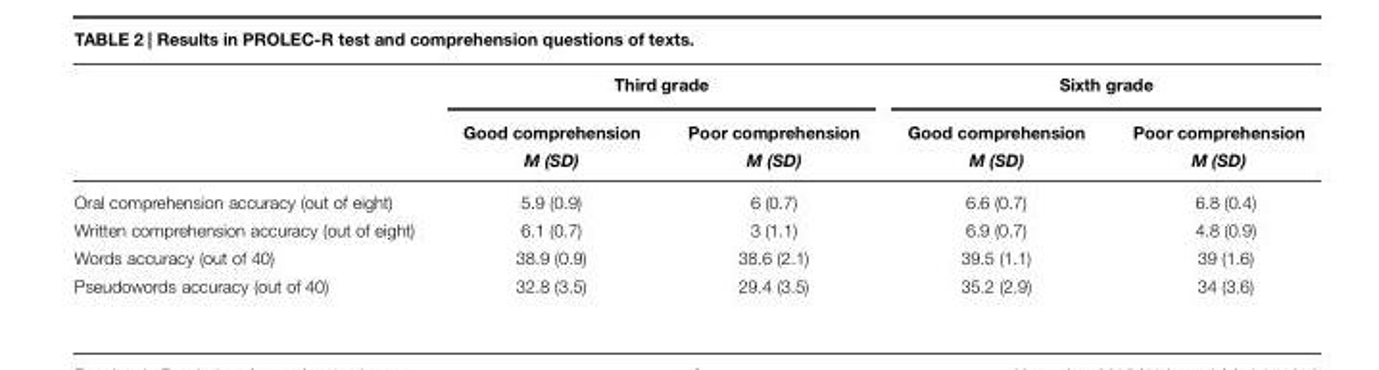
<table><thead><tr><td rowspan="3"></td><td colspan="2">Third grade</td><td colspan="2">Sixth grade</td></tr><tr><td rowspan="2">Good comprehension M (SD)</td><td rowspan="2">Poor comprehension M (SD)</td><td rowspan="2">Good comprehension M (SD)</td><td rowspan="2">Poor comprehension M (SD)</td></tr><tr></tr></thead><tbody><tr><td>Oral comprehension accuracy (out of eight)</td><td>5.9 (0.9)</td><td>6 (0.7)</td><td>6.6 (0.7)</td><td>6.8 (0.4)</td></tr><tr><td>Written comprehension accuracy (out of eight)</td><td>6.1 (0.7)</td><td>3 (1.1)</td><td>6.9 (0.7)</td><td>4.8 (0.9)</td></tr><tr><td>Words accuracy (out of 40)</td><td>38.9 (0.9)</td><td>38.6 (2.1)</td><td>39.5 (1.1)</td><td>39 (1.6)</td></tr><tr><td>Pseudowords accuracy (out of 40)</td><td>32.8 (3.5)</td><td>29.4 (3.5)</td><td>35.2 (2.9)</td><td>34 (3.6)</td></tr></tbody></table>